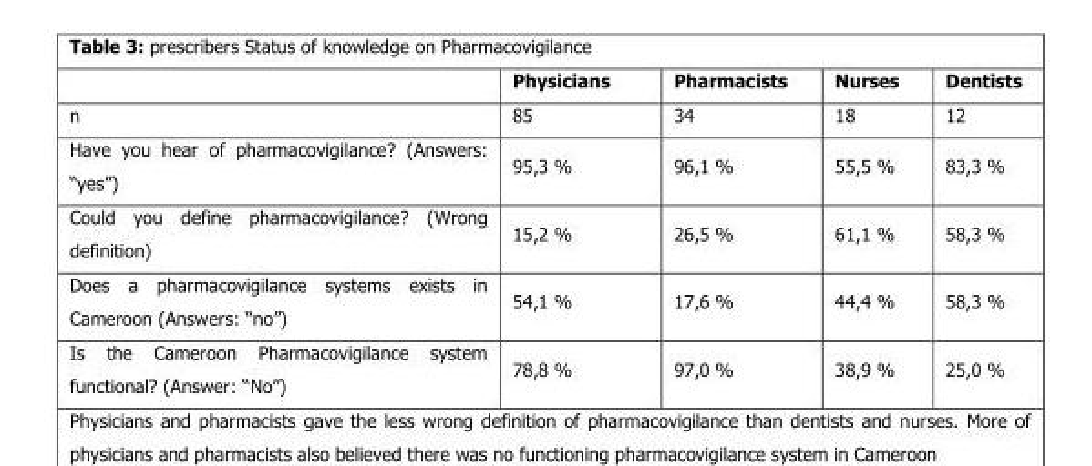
<table><thead><tr><td></td><td>Physicians</td><td>Pharmacists</td><td>Nurses</td><td>Dentists</td></tr></thead><tbody><tr><td>n</td><td>85</td><td>34</td><td>18</td><td>12</td></tr><tr><td>Have you hear of pharmacovigilance? (Answers: “yes”)</td><td>95,3 %</td><td>96,1 %</td><td>55,5 %</td><td>83,3 %</td></tr><tr><td>Could you define pharmacovigilance? (Wrong definition)</td><td>15,2 %</td><td>26,5 %</td><td>61,1 %</td><td>58,3 %</td></tr><tr><td>Does a pharmacovigilance systems exists in Cameroon (Answers: “no”)</td><td>54,1 %</td><td>17,6 %</td><td>44,4 %</td><td>58,3 %</td></tr><tr><td>Is the Cameroon Pharmacovigilance system functional? (Answer: “No”)</td><td>78,8 %</td><td>97,0 %</td><td>38,9 %</td><td>25,0 %</td></tr></tbody></table>